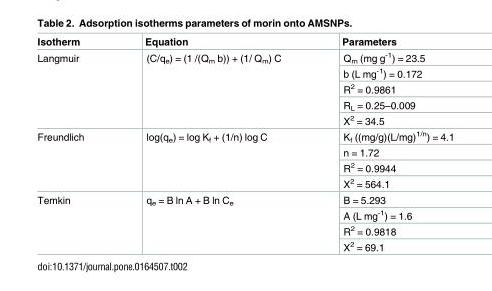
<table><thead><tr><td>Isotherm</td><td>Equation</td><td>Parameters</td></tr></thead><tbody><tr><td rowspan="5">Langmuir</td><td rowspan="5">(C/q<sub>e</sub>) = (1 /(Q<sub>m</sub> b)) + (1/ Q<sub>m</sub>) C</td><td>Q<sub>m</sub> (mg g<sup>-1</sup>) = 23.5</td></tr><tr><td>b (L mg<sup>-1</sup>) = 0.172</td></tr><tr><td>R<sup>2</sup> = 0.9861</td></tr><tr><td>R<sub>L</sub> = 0.25–0.009</td></tr><tr><td>X<sup>2</sup> = 34.5</td></tr><tr><td rowspan="4">Freundlich</td><td rowspan="4">log(q<sub>e</sub>) = log K<sub>f</sub> + (1/n) log C</td><td>K<sub>f</sub> ((mg/g)(L/mg)<sup>1/n</sup>) = 4.1</td></tr><tr><td>n = 1.72</td></tr><tr><td>R<sup>2</sup> = 0.9944</td></tr><tr><td>X<sup>2</sup> = 564.1</td></tr><tr><td rowspan="4">Temkin</td><td rowspan="4">q<sub>e</sub> = B ln A + B ln C<sub>e</sub></td><td>B = 5.293</td></tr><tr><td>A (L mg<sup>-1</sup>) = 1.6</td></tr><tr><td>R<sup>2</sup> = 0.9818</td></tr><tr><td>X<sup>2</sup> = 69.1</td></tr></tbody></table>